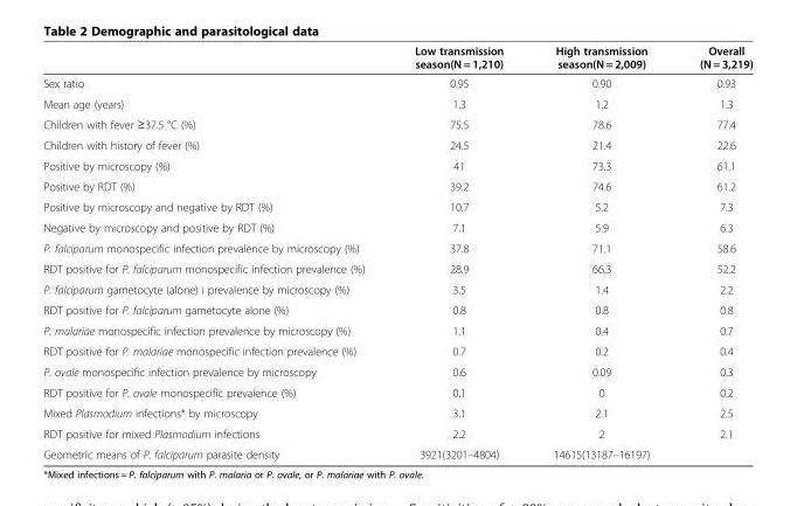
<table><thead><tr><td></td><td>Low transmission season(N = 1,210)</td><td>High transmission season(N = 2,009)</td><td>Overall (N = 3,219)</td></tr></thead><tbody><tr><td>Sex ratio</td><td>0.95</td><td>0.90</td><td>0.93</td></tr><tr><td>Mean age (years)</td><td>1.3</td><td>1.2</td><td>1.3</td></tr><tr><td>Children with fever ≥37.5 °C (%)</td><td>75.5</td><td>78.6</td><td>77.4</td></tr><tr><td>Children with history of fever (%)</td><td>24.5</td><td>21.4</td><td>22.6</td></tr><tr><td>Positive by microscopy (%)</td><td>41</td><td>73.3</td><td>61.1</td></tr><tr><td>Positive by RDT (%)</td><td>39.2</td><td>74.6</td><td>61.2</td></tr><tr><td>Positive by microscopy and negative by RDT (%)</td><td>10.7</td><td>5.2</td><td>7.3</td></tr><tr><td>Negative by microscopy and positive by RDT (%)</td><td>7.1</td><td>5.9</td><td>6.3</td></tr><tr><td>P. falciparum monospecific infection prevalence by microscopy (%)</td><td>37.8</td><td>71.1</td><td>58.6</td></tr><tr><td>RDT positive for P. falciparum monospecific infection prevalence (%)</td><td>28.9</td><td>66.3</td><td>52.2</td></tr><tr><td>P. falciparum gametocyte (alone) i prevalence by microscopy (%)</td><td>3.5</td><td>1.4</td><td>2.2</td></tr><tr><td>RDT positive for P. falciparum gametocyte alone (%)</td><td>0.8</td><td>0.8</td><td>0.8</td></tr><tr><td>P. malariae monospecific infection prevalence by microscopy (%)</td><td>1.1</td><td>0.4</td><td>0.7</td></tr><tr><td>RDT positive for P. malariae monospecific infection prevalence (%)</td><td>0.7</td><td>0.2</td><td>0.4</td></tr><tr><td>P. ovale monospecific infection prevalence by microscopy</td><td>0.6</td><td>0.09</td><td>0.3</td></tr><tr><td>RDT positive for P. ovale monospecific prevalence (%)</td><td>0.1</td><td>0</td><td>0.2</td></tr><tr><td>Mixed Plasmodium infections* by microscopy</td><td>3.1</td><td>2.1</td><td>2.5</td></tr><tr><td>RDT positive for mixed Plasmodium infections</td><td>2.2</td><td>2</td><td>2.1</td></tr><tr><td>Geometric means of P. falciparum parasite density</td><td>3921(3201–4804)</td><td>14615(13187–16197)</td><td></td></tr></tbody></table>